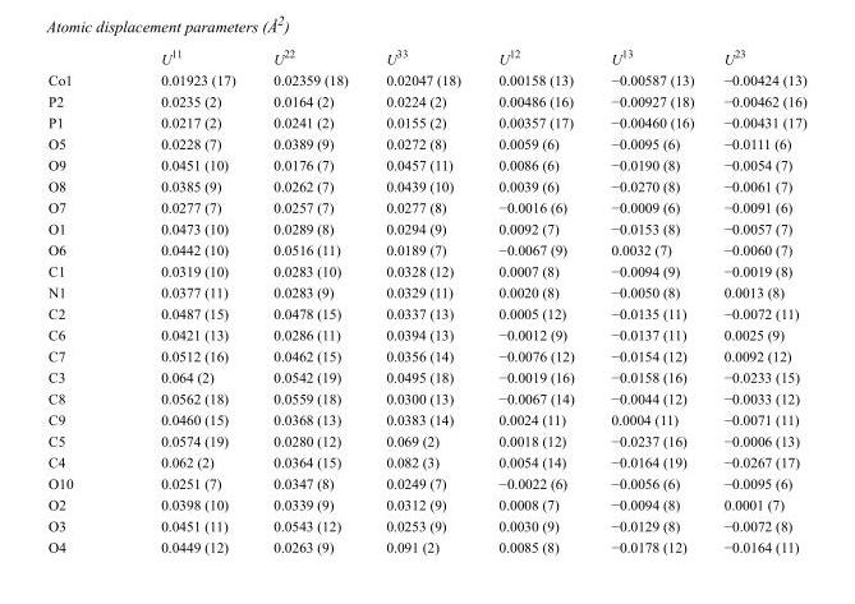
<table><thead><tr><td></td><td>U<sup>11</sup></td><td>U<sup>22</sup></td><td>U<sup>33</sup></td><td>U<sup>12</sup></td><td>U<sup>13</sup></td><td>U<sup>23</sup></td></tr></thead><tbody><tr><td>Co1</td><td>0.01923 (17)</td><td>0.02359 (18)</td><td>0.02047 (18)</td><td>0.00158 (13)</td><td>−0.00587 (13)</td><td>−0.00424 (13)</td></tr><tr><td>P2</td><td>0.0235 (2)</td><td>0.0164 (2)</td><td>0.0224 (2)</td><td>0.00486 (16)</td><td>−0.00927 (18)</td><td>−0.00462 (16)</td></tr><tr><td>P1</td><td>0.0217 (2)</td><td>0.0241 (2)</td><td>0.0155 (2)</td><td>0.00357 (17)</td><td>−0.00460 (16)</td><td>−0.00431 (17)</td></tr><tr><td>O5</td><td>0.0228 (7)</td><td>0.0389 (9)</td><td>0.0272 (8)</td><td>0.0059 (6)</td><td>−0.0095 (6)</td><td>−0.0111 (6)</td></tr><tr><td>O9</td><td>0.0451 (10)</td><td>0.0176 (7)</td><td>0.0457 (11)</td><td>0.0086 (6)</td><td>−0.0190 (8)</td><td>−0.0054 (7)</td></tr><tr><td>O8</td><td>0.0385 (9)</td><td>0.0262 (7)</td><td>0.0439 (10)</td><td>0.0039 (6)</td><td>−0.0270 (8)</td><td>−0.0061 (7)</td></tr><tr><td>O7</td><td>0.0277 (7)</td><td>0.0257 (7)</td><td>0.0277 (8)</td><td>−0.0016 (6)</td><td>−0.0009 (6)</td><td>−0.0091 (6)</td></tr><tr><td>O1</td><td>0.0473 (10)</td><td>0.0289 (8)</td><td>0.0294 (9)</td><td>0.0092 (7)</td><td>−0.0153 (8)</td><td>−0.0057 (7)</td></tr><tr><td>O6</td><td>0.0442 (10)</td><td>0.0516 (11)</td><td>0.0189 (7)</td><td>−0.0067 (9)</td><td>0.0032 (7)</td><td>−0.0060 (7)</td></tr><tr><td>C1</td><td>0.0319 (10)</td><td>0.0283 (10)</td><td>0.0328 (12)</td><td>0.0007 (8)</td><td>−0.0094 (9)</td><td>−0.0019 (8)</td></tr><tr><td>N1</td><td>0.0377 (11)</td><td>0.0283 (9)</td><td>0.0329 (11)</td><td>0.0020 (8)</td><td>−0.0050 (8)</td><td>0.0013 (8)</td></tr><tr><td>C2</td><td>0.0487 (15)</td><td>0.0478 (15)</td><td>0.0337 (13)</td><td>0.0005 (12)</td><td>−0.0135 (11)</td><td>−0.0072 (11)</td></tr><tr><td>C6</td><td>0.0421 (13)</td><td>0.0286 (11)</td><td>0.0394 (13)</td><td>−0.0012 (9)</td><td>−0.0137 (11)</td><td>0.0025 (9)</td></tr><tr><td>C7</td><td>0.0512 (16)</td><td>0.0462 (15)</td><td>0.0356 (14)</td><td>−0.0076 (12)</td><td>−0.0154 (12)</td><td>0.0092 (12)</td></tr><tr><td>C3</td><td>0.064 (2)</td><td>0.0542 (19)</td><td>0.0495 (18)</td><td>−0.0019 (16)</td><td>−0.0158 (16)</td><td>−0.0233 (15)</td></tr><tr><td>C8</td><td>0.0562 (18)</td><td>0.0559 (18)</td><td>0.0300 (13)</td><td>−0.0067 (14)</td><td>−0.0044 (12)</td><td>−0.0033 (12)</td></tr><tr><td>C9</td><td>0.0460 (15)</td><td>0.0368 (13)</td><td>0.0383 (14)</td><td>0.0024 (11)</td><td>0.0004 (11)</td><td>−0.0071 (11)</td></tr><tr><td>C5</td><td>0.0574 (19)</td><td>0.0280 (12)</td><td>0.069 (2)</td><td>0.0018 (12)</td><td>−0.0237 (16)</td><td>−0.0006 (13)</td></tr><tr><td>C4</td><td>0.062 (2)</td><td>0.0364 (15)</td><td>0.082 (3)</td><td>0.0054 (14)</td><td>−0.0164 (19)</td><td>−0.0267 (17)</td></tr><tr><td>O10</td><td>0.0251 (7)</td><td>0.0347 (8)</td><td>0.0249 (7)</td><td>−0.0022 (6)</td><td>−0.0056 (6)</td><td>−0.0095 (6)</td></tr><tr><td>O2</td><td>0.0398 (10)</td><td>0.0339 (9)</td><td>0.0312 (9)</td><td>0.0008 (7)</td><td>−0.0094 (8)</td><td>0.0001 (7)</td></tr><tr><td>O3</td><td>0.0451 (11)</td><td>0.0543 (12)</td><td>0.0253 (9)</td><td>0.0030 (9)</td><td>−0.0129 (8)</td><td>−0.0072 (8)</td></tr><tr><td>O4</td><td>0.0449 (12)</td><td>0.0263 (9)</td><td>0.091 (2)</td><td>0.0085 (8)</td><td>−0.0178 (12)</td><td>−0.0164 (11)</td></tr></tbody></table>